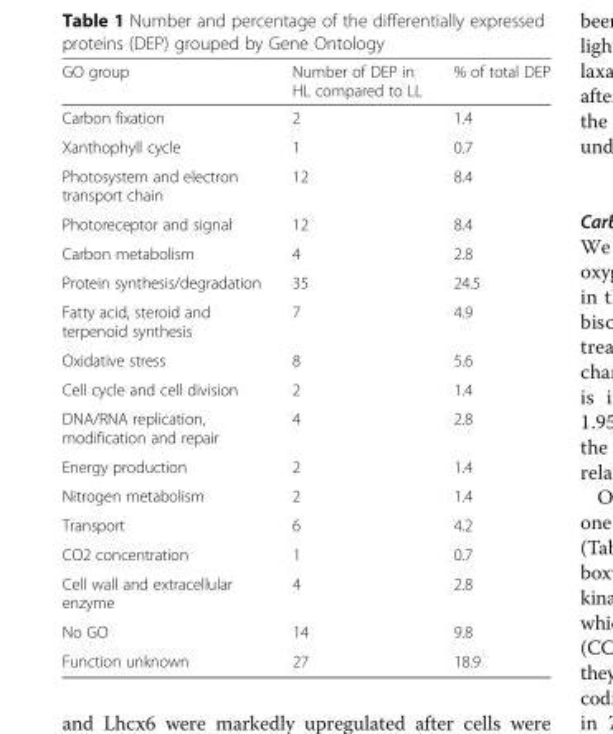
<table><thead><tr><td>GO group</td><td>Number of DEP in HL compared to LL</td><td>% of total DEP</td></tr></thead><tbody><tr><td>Carbon fixation</td><td>2</td><td>1.4</td></tr><tr><td>Xanthophyll cycle</td><td>1</td><td>0.7</td></tr><tr><td>Photosystem and electron transport chain</td><td>12</td><td>8.4</td></tr><tr><td>Photoreceptor and signal</td><td>12</td><td>8.4</td></tr><tr><td>Carbon metabolism</td><td>4</td><td>2.8</td></tr><tr><td>Protein synthesis/degradation</td><td>35</td><td>24.5</td></tr><tr><td>Fatty acid, steroid and terpenoid synthesis</td><td>7</td><td>4.9</td></tr><tr><td>Oxidative stress</td><td>8</td><td>5.6</td></tr><tr><td>Cell cycle and cell division</td><td>2</td><td>1.4</td></tr><tr><td>DNA/RNA replication, modification and repair</td><td>4</td><td>2.8</td></tr><tr><td>Energy production</td><td>2</td><td>1.4</td></tr><tr><td>Nitrogen metabolism</td><td>2</td><td>1.4</td></tr><tr><td>Transport</td><td>6</td><td>4.2</td></tr><tr><td>CO2 concentration</td><td>1</td><td>0.7</td></tr><tr><td>Cell wall and extracellular enzyme</td><td>4</td><td>2.8</td></tr><tr><td>No GO</td><td>14</td><td>9.8</td></tr><tr><td>Function unknown</td><td>27</td><td>18.9</td></tr></tbody></table>